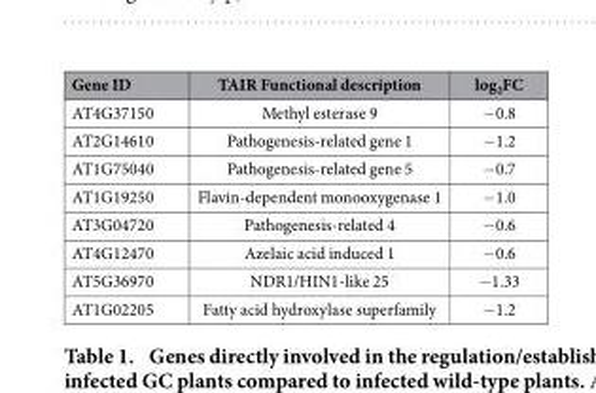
<table><thead><tr><td>Gene ID</td><td>TAIR Functional description</td><td>log<sub>2</sub>FC</td></tr></thead><tbody><tr><td>AT4G37150</td><td>Methyl esterase 9</td><td>− 0.8</td></tr><tr><td>AT2G14610</td><td>Pathogenesis-related gene 1</td><td>− 1.2</td></tr><tr><td>AT1G75040</td><td>Pathogenesis-related gene 5</td><td>− 0.7</td></tr><tr><td>AT1G19250</td><td>Flavin-dependent monooxygenase 1</td><td>− 1.0</td></tr><tr><td>AT3G04720</td><td>Pathogenesis-related 4</td><td>− 0.6</td></tr><tr><td>AT4G12470</td><td>Azelaic acid induced 1</td><td>− 0.6</td></tr><tr><td>AT5G36970</td><td>NDR1/HIN1-like 25</td><td>− 1.33</td></tr><tr><td>AT1G02205</td><td>Fatty acid hydroxylase superfamily</td><td>− 1.2</td></tr></tbody></table>